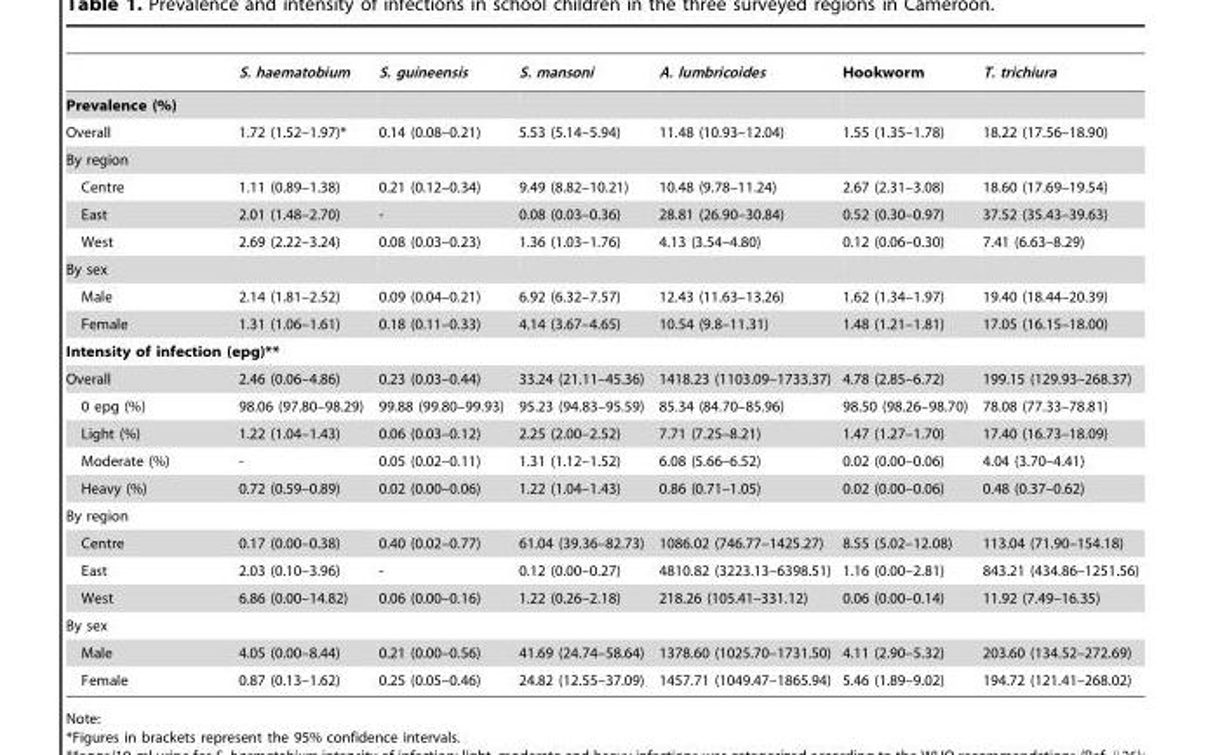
<table><thead><tr><td></td><td>S. haematobium</td><td>S. guineensis</td><td>S. mansoni</td><td>A. lumbricoides</td><td>Hookworm</td><td>T. trichiura</td></tr></thead><tbody><tr><td colspan="7">Prevalence (%)</td></tr><tr><td>Overall</td><td>1.72 (1.52–1.97)*</td><td>0.14 (0.08–0.21)</td><td>5.53 (5.14–5.94)</td><td>11.48 (10.93–12.04)</td><td>1.55 (1.35–1.78)</td><td>18.22 (17.56–18.90)</td></tr><tr><td colspan="7">By region</td></tr><tr><td>Centre</td><td>1.11 (0.89–1.38)</td><td>0.21 (0.12–0.34)</td><td>9.49 (8.82–10.21)</td><td>10.48 (9.78–11.24)</td><td>2.67 (2.31–3.08)</td><td>18.60 (17.69–19.54)</td></tr><tr><td>East</td><td>2.01 (1.48–2.70)</td><td>-</td><td>0.08 (0.03–0.36)</td><td>28.81 (26.90–30.84)</td><td>0.52 (0.30–0.97)</td><td>37.52 (35.43–39.63)</td></tr><tr><td>West</td><td>2.69 (2.22–3.24)</td><td>0.08 (0.03–0.23)</td><td>1.36 (1.03–1.76)</td><td>4.13 (3.54–4.80)</td><td>0.12 (0.06–0.30)</td><td>7.41 (6.63–8.29)</td></tr><tr><td colspan="7">By sex</td></tr><tr><td>Male</td><td>2.14 (1.81–2.52)</td><td>0.09 (0.04–0.21)</td><td>6.92 (6.32–7.57)</td><td>12.43 (11.63–13.26)</td><td>1.62 (1.34–1.97)</td><td>19.40 (18.44–20.39)</td></tr><tr><td>Female</td><td>1.31 (1.06–1.61)</td><td>0.18 (0.11–0.33)</td><td>4.14 (3.67–4.65)</td><td>10.54 (9.8–11.31)</td><td>1.48 (1.21–1.81)</td><td>17.05 (16.15–18.00)</td></tr><tr><td colspan="7">Intensity of infection (epg)**</td></tr><tr><td>Overall</td><td>2.46 (0.06–4.86)</td><td>0.23 (0.03–0.44)</td><td>33.24 (21.11–45.36)</td><td>1418.23 (1103.09–1733.37)</td><td>4.78 (2.85–6.72)</td><td>199.15 (129.93–268.37)</td></tr><tr><td>0 epg (%)</td><td>98.06 (97.80–98.29)</td><td>99.88 (99.80–99.93)</td><td>95.23 (94.83–95.59)</td><td>85.34 (84.70–85.96)</td><td>98.50 (98.26–98.70)</td><td>78.08 (77.33–78.81)</td></tr><tr><td>Light (%)</td><td>1.22 (1.04–1.43)</td><td>0.06 (0.03–0.12)</td><td>2.25 (2.00–2.52)</td><td>7.71 (7.25–8.21)</td><td>1.47 (1.27–1.70)</td><td>17.40 (16.73–18.09)</td></tr><tr><td>Moderate (%)</td><td>-</td><td>0.05 (0.02–0.11)</td><td>1.31 (1.12–1.52)</td><td>6.08 (5.66–6.52)</td><td>0.02 (0.00–0.06)</td><td>4.04 (3.70–4.41)</td></tr><tr><td>Heavy (%)</td><td>0.72 (0.59–0.89)</td><td>0.02 (0.00–0.06)</td><td>1.22 (1.04–1.43)</td><td>0.86 (0.71–1.05)</td><td>0.02 (0.00–0.06)</td><td>0.48 (0.37–0.62)</td></tr><tr><td colspan="7">By region</td></tr><tr><td>Centre</td><td>0.17 (0.00–0.38)</td><td>0.40 (0.02–0.77)</td><td>61.04 (39.36–82.73)</td><td>1086.02 (746.77–1425.27)</td><td>8.55 (5.02–12.08)</td><td>113.04 (71.90–154.18)</td></tr><tr><td>East</td><td>2.03 (0.10–3.96)</td><td>-</td><td>0.12 (0.00–0.27)</td><td>4810.82 (3223.13–6398.51)</td><td>1.16 (0.00–2.81)</td><td>843.21 (434.86–1251.56)</td></tr><tr><td>West</td><td>6.86 (0.00–14.82)</td><td>0.06 (0.00–0.16)</td><td>1.22 (0.26–2.18)</td><td>218.26 (105.41–331.12)</td><td>0.06 (0.00–0.14)</td><td>11.92 (7.49–16.35)</td></tr><tr><td colspan="7">By sex</td></tr><tr><td>Male</td><td>4.05 (0.00–8.44)</td><td>0.21 (0.00–0.56)</td><td>41.69 (24.74–58.64)</td><td>1378.60 (1025.70–1731.50)</td><td>4.11 (2.90–5.32)</td><td>203.60 (134.52–272.69)</td></tr><tr><td>Female</td><td>0.87 (0.13–1.62)</td><td>0.25 (0.05–0.46)</td><td>24.82 (12.55–37.09)</td><td>1457.71 (1049.47–1865.94)</td><td>5.46 (1.89–9.02)</td><td>194.72 (121.41–268.02)</td></tr></tbody></table>